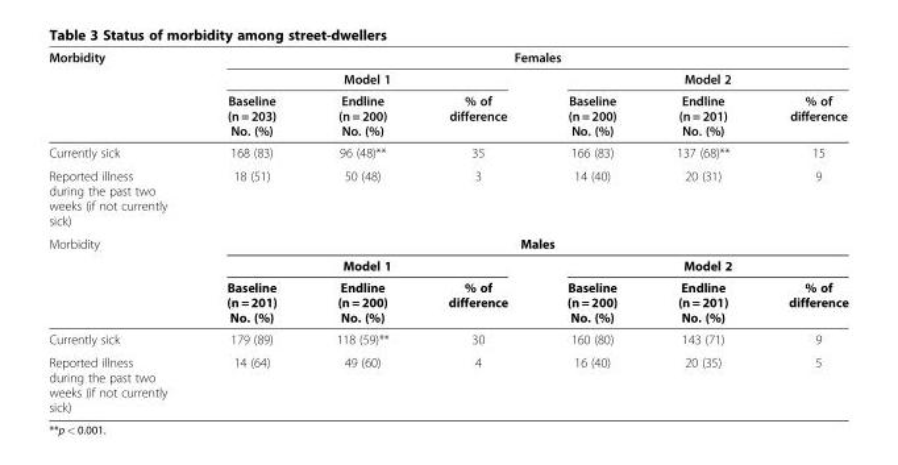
<table><thead><tr><td rowspan="3">Morbidity</td><td colspan="6">Females</td></tr><tr><td colspan="3">Model 1</td><td colspan="3">Model 2</td></tr><tr><td>Baseline (n = 203) No. (%)</td><td>Endline (n = 200) No. (%)</td><td>% of difference</td><td>Baseline (n = 200) No. (%)</td><td>Endline (n = 201) No. (%)</td><td>% of difference</td></tr></thead><tbody><tr><td>Currently sick</td><td>168 (83)</td><td>96 (48)**</td><td>35</td><td>166 (83)</td><td>137 (68)**</td><td>15</td></tr><tr><td>Reported illness during the past two weeks (if not currently sick)</td><td>18 (51)</td><td>50 (48)</td><td>3</td><td>14 (40)</td><td>20 (31)</td><td>9</td></tr><tr><td rowspan="3">Morbidity</td><td colspan="6">Males</td></tr><tr><td colspan="3">Model 1</td><td colspan="3">Model 2</td></tr><tr><td>Baseline (n = 201) No. (%)</td><td>Endline (n = 200) No. (%)</td><td>% of difference</td><td>Baseline (n = 200) No. (%)</td><td>Endline (n = 201) No. (%)</td><td>% of difference</td></tr><tr><td>Currently sick</td><td>179 (89)</td><td>118 (59)**</td><td>30</td><td>160 (80)</td><td>143 (71)</td><td>9</td></tr><tr><td>Reported illness during the past two weeks (if not currently sick)</td><td>14 (64)</td><td>49 (60)</td><td>4</td><td>16 (40)</td><td>20 (35)</td><td>5</td></tr></tbody></table>